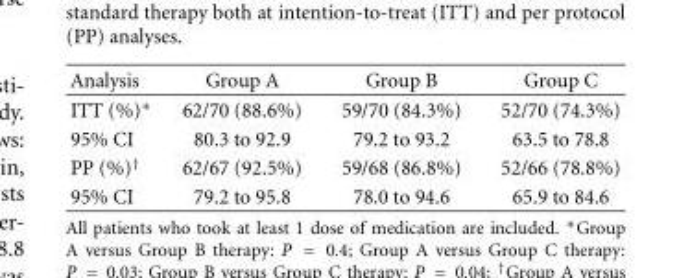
<table><thead><tr><td>Analysis</td><td>Group A</td><td>Group B</td><td>Group C</td></tr></thead><tbody><tr><td>ITT (%)∗</td><td>62/70 (88.6%)</td><td>59/70 (84.3%)</td><td>52/70 (74.3%)</td></tr><tr><td>95% CI</td><td>80.3 to 92.9</td><td>79.2 to 93.2</td><td>63.5 to 78.8</td></tr><tr><td>PP (%)<sup>†</sup></td><td>62/67 (92.5%)</td><td>59/68 (86.8%)</td><td>52/66 (78.8%)</td></tr><tr><td>95% CI</td><td>79.2 to 95.8</td><td>78.0 to 94.6</td><td>65.9 to 84.6</td></tr></tbody></table>